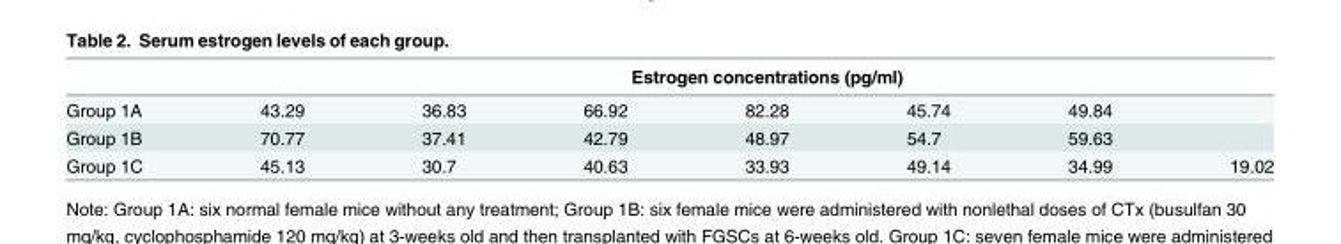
<table><thead><tr><td rowspan="2">Group 1A</td><td colspan="7">Estrogen concentrations (pg/ml)</td></tr><tr><td>43.29</td><td>36.83</td><td>66.92</td><td>82.28</td><td>45.74</td><td>49.84</td><td></td></tr></thead><tbody><tr><td>Group 1B</td><td>70.77</td><td>37.41</td><td>42.79</td><td>48.97</td><td>54.7</td><td>59.63</td><td></td></tr><tr><td>Group 1C</td><td>45.13</td><td>30.7</td><td>40.63</td><td>33.93</td><td>49.14</td><td>34.99</td><td>19.02</td></tr></tbody></table>